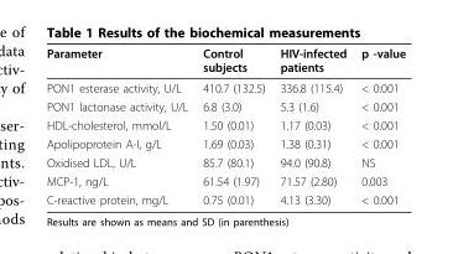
<table><thead><tr><td>Parameter</td><td>Control subjects</td><td>HIV-infected patients</td><td>p -value</td></tr></thead><tbody><tr><td>PON1 esterase activity, U/L</td><td>410.7 (132.5)</td><td>336.8 (115.4)</td><td>&lt; 0.001</td></tr><tr><td>PON1 lactonase activity, U/L</td><td>6.8 (3.0)</td><td>5.3 (1.6)</td><td>&lt; 0.001</td></tr><tr><td>HDL-cholesterol, mmol/L</td><td>1.50 (0.01)</td><td>1.17 (0.03)</td><td>&lt; 0.001</td></tr><tr><td>Apolipoprotein A-I, g/L</td><td>1.69 (0.03)</td><td>1.38 (0.31)</td><td>&lt; 0.001</td></tr><tr><td>Oxidised LDL, U/L</td><td>85.7 (80.1)</td><td>94.0 (90.8)</td><td>NS</td></tr><tr><td>MCP-1, ng/L</td><td>61.54 (1.97)</td><td>71.57 (2.80)</td><td>0.003</td></tr><tr><td>C-reactive protein, mg/L</td><td>0.75 (0.01)</td><td>4.13 (3.30)</td><td>&lt; 0.001</td></tr></tbody></table>